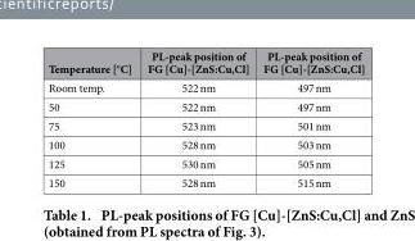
<table><thead><tr><td>Temperature [°C]</td><td>PL-peak position of FG [Cu]-[ZnS:Cu,Cl]</td><td>PL-peak position of FG [Cu]-[ZnS:Cu,Cl]</td></tr></thead><tbody><tr><td>Room temp.</td><td>522 nm</td><td>497 nm</td></tr><tr><td>50</td><td>522 nm</td><td>497 nm</td></tr><tr><td>75</td><td>523 nm</td><td>501 nm</td></tr><tr><td>100</td><td>528 nm</td><td>503 nm</td></tr><tr><td>125</td><td>530 nm</td><td>505 nm</td></tr><tr><td>150</td><td>528 nm</td><td>515 nm</td></tr></tbody></table>